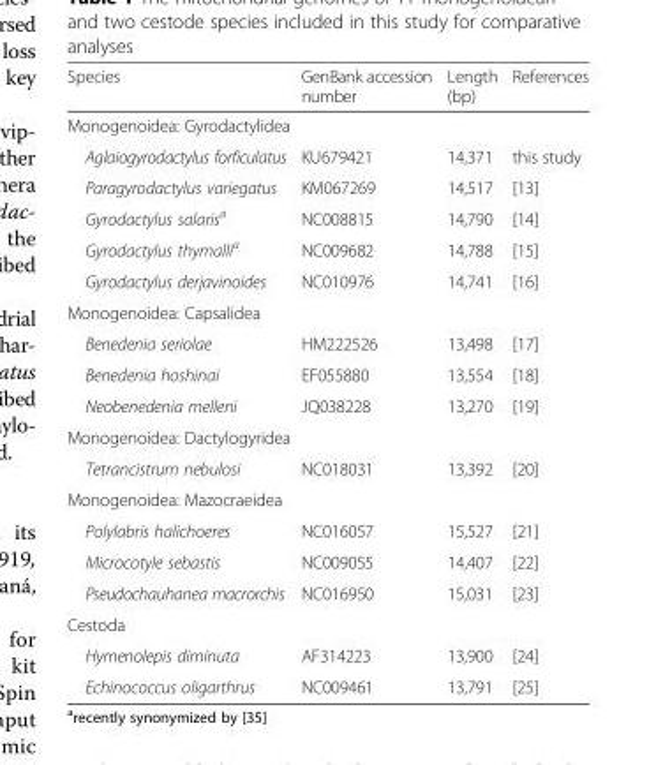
<table><thead><tr><td>Species</td><td>GenBank accession number</td><td>Length (bp)</td><td>References</td></tr></thead><tbody><tr><td colspan="4">Monogenoidea: Gyrodactylidea</td></tr><tr><td>Aglaiogyrodactylus forficulatus</td><td>KU679421</td><td>14,371</td><td>this study</td></tr><tr><td>Paragyrodactylus variegatus</td><td>KM067269</td><td>14,517</td><td>[13]</td></tr><tr><td>Gyrodactylus salaris<sup>a</sup></td><td>NC008815</td><td>14,790</td><td>[14]</td></tr><tr><td>Gyrodactylus thymalli<sup>a</sup></td><td>NC009682</td><td>14,788</td><td>[15]</td></tr><tr><td>Gyrodactylus derjavinoides</td><td>NC010976</td><td>14,741</td><td>[16]</td></tr><tr><td colspan="4">Monogenoidea: Capsalidea</td></tr><tr><td>Benedenia seriolae</td><td>HM222526</td><td>13,498</td><td>[17]</td></tr><tr><td>Benedenia hoshinai</td><td>EF055880</td><td>13,554</td><td>[18]</td></tr><tr><td>Neobenedenia melleni</td><td>JQ038228</td><td>13,270</td><td>[19]</td></tr><tr><td colspan="4">Monogenoidea: Dactylogyridea</td></tr><tr><td>Tetrancistrum nebulosi</td><td>NC018031</td><td>13,392</td><td>[20]</td></tr><tr><td colspan="4">Monogenoidea: Mazocraeidea</td></tr><tr><td>Polylabris halichoeres</td><td>NC016057</td><td>15,527</td><td>[21]</td></tr><tr><td>Microcotyle sebastis</td><td>NC009055</td><td>14,407</td><td>[22]</td></tr><tr><td>Pseudochauhanea macrorchis</td><td>NC016950</td><td>15,031</td><td>[23]</td></tr><tr><td colspan="4">Cestoda</td></tr><tr><td>Hymenolepis diminuta</td><td>AF314223</td><td>13,900</td><td>[24]</td></tr><tr><td>Echinococcus oligarthrus</td><td>NC009461</td><td>13,791</td><td>[25]</td></tr></tbody></table>